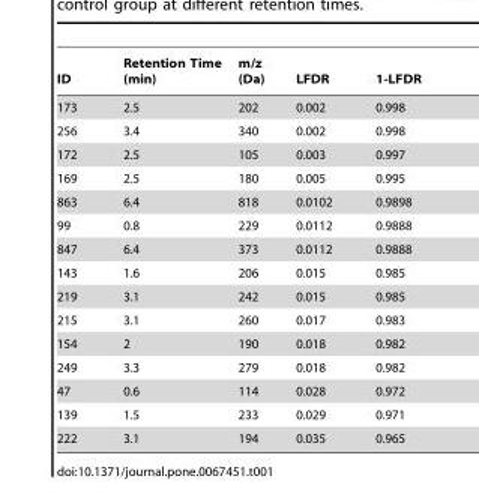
<table><thead><tr><td>ID</td><td>Retention Time (min)</td><td>m/z (Da)</td><td>LFDR</td><td>1-LFDR</td></tr></thead><tbody><tr><td>173</td><td>2.5</td><td>202</td><td>0.002</td><td>0.998</td></tr><tr><td>256</td><td>3.4</td><td>340</td><td>0.002</td><td>0.998</td></tr><tr><td>172</td><td>2.5</td><td>105</td><td>0.003</td><td>0.997</td></tr><tr><td>169</td><td>2.5</td><td>180</td><td>0.005</td><td>0.995</td></tr><tr><td>863</td><td>6.4</td><td>818</td><td>0.0102</td><td>0.9898</td></tr><tr><td>99</td><td>0.8</td><td>229</td><td>0.0112</td><td>0.9888</td></tr><tr><td>847</td><td>6.4</td><td>373</td><td>0.0112</td><td>0.9888</td></tr><tr><td>143</td><td>1.6</td><td>206</td><td>0.015</td><td>0.985</td></tr><tr><td>219</td><td>3.1</td><td>242</td><td>0.015</td><td>0.985</td></tr><tr><td>215</td><td>3.1</td><td>260</td><td>0.017</td><td>0.983</td></tr><tr><td>154</td><td>2</td><td>190</td><td>0.018</td><td>0.982</td></tr><tr><td>249</td><td>3.3</td><td>279</td><td>0.018</td><td>0.982</td></tr><tr><td>47</td><td>0.6</td><td>114</td><td>0.028</td><td>0.972</td></tr><tr><td>139</td><td>1.5</td><td>233</td><td>0.029</td><td>0.971</td></tr><tr><td>222</td><td>3.1</td><td>194</td><td>0.035</td><td>0.965</td></tr></tbody></table>